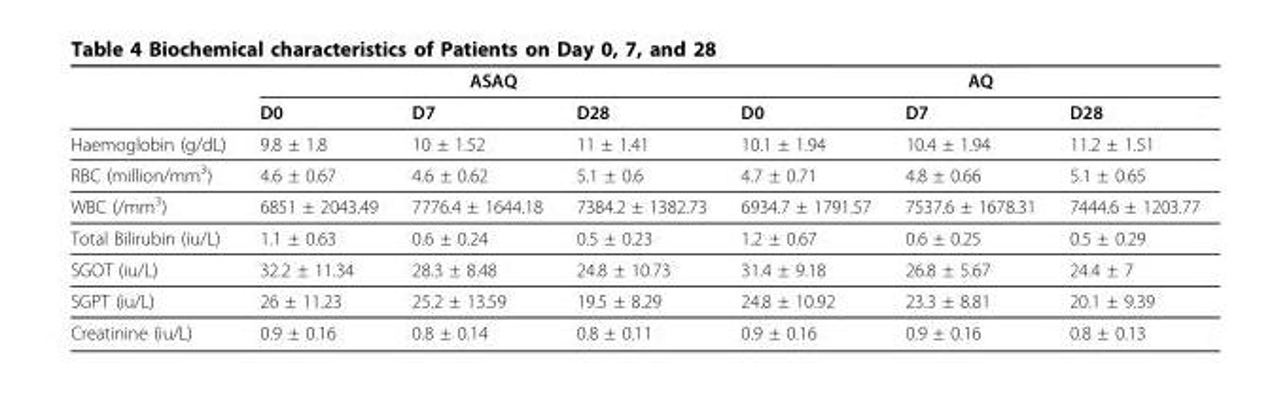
<table><thead><tr><td rowspan="2"></td><td colspan="3">ASAQ</td><td colspan="3">AQ</td></tr><tr><td>D0</td><td>D7</td><td>D28</td><td>D0</td><td>D7</td><td>D28</td></tr></thead><tbody><tr><td>Haemoglobin (g/dL)</td><td>9.8 ± 1.8</td><td>10 ± 1.52</td><td>11 ± 1.41</td><td>10.1 ± 1.94</td><td>10.4 ± 1.94</td><td>11.2 ± 1.51</td></tr><tr><td>RBC (million/mm<sup>3</sup>)</td><td>4.6 ± 0.67</td><td>4.6 ± 0.62</td><td>5.1 ± 0.6</td><td>4.7 ± 0.71</td><td>4.8 ± 0.66</td><td>5.1 ± 0.65</td></tr><tr><td>WBC (/mm<sup>3</sup>)</td><td>6851 ± 2043.49</td><td>7776.4 ± 1644.18</td><td>7384.2 ± 1382.73</td><td>6934.7 ± 1791.57</td><td>7537.6 ± 1678.31</td><td>7444.6 ± 1203.77</td></tr><tr><td>Total Bilirubin (iu/L)</td><td>1.1 ± 0.63</td><td>0.6 ± 0.24</td><td>0.5 ± 0.23</td><td>1.2 ± 0.67</td><td>0.6 ± 0.25</td><td>0.5 ± 0.29</td></tr><tr><td>SGOT (iu/L)</td><td>32.2 ± 11.34</td><td>28.3 ± 8.48</td><td>24.8 ± 10.73</td><td>31.4 ± 9.18</td><td>26.8 ± 5.67</td><td>24.4 ± 7</td></tr><tr><td>SGPT (iu/L)</td><td>26 ± 11.23</td><td>25.2 ± 13.59</td><td>19.5 ± 8.29</td><td>24.8 ± 10.92</td><td>23.3 ± 8.81</td><td>20.1 ± 9.39</td></tr><tr><td>Creatinine (iu/L)</td><td>0.9 ± 0.16</td><td>0.8 ± 0.14</td><td>0.8 ± 0.11</td><td>0.9 ± 0.16</td><td>0.9 ± 0.16</td><td>0.8 ± 0.13</td></tr></tbody></table>